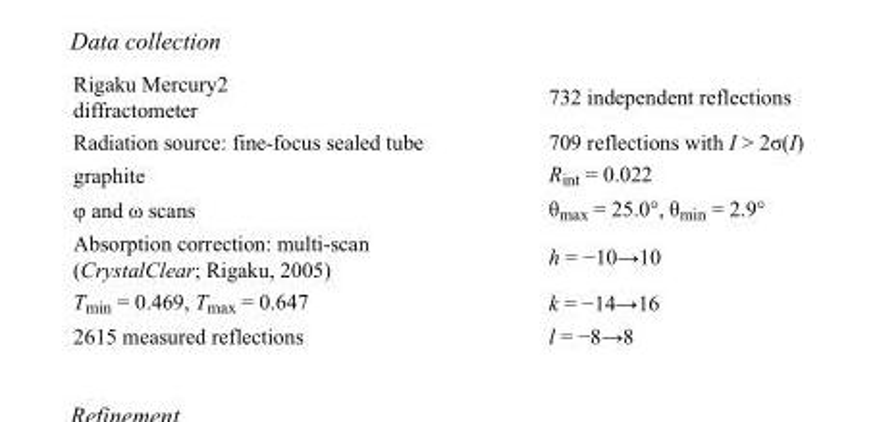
<table><tbody><tr><td>Rigaku Mercury2 diffractometer</td><td>732 independent reflections</td></tr><tr><td>Radiation source: fine-focus sealed tube</td><td>709 reflections with I &gt; 2σ(I)</td></tr><tr><td>graphite</td><td>R<sub>int</sub> = 0.022</td></tr><tr><td>φ and ω scans</td><td>θ<sub>max</sub> = 25.0°, θ<sub>min</sub> = 2.9°</td></tr><tr><td>Absorption correction: multi-scan (CrystalClear; Rigaku, 2005)</td><td>h = −10→10</td></tr><tr><td>T<sub>min</sub> = 0.469, T<sub>max</sub> = 0.647</td><td>k = −14→16</td></tr><tr><td>2615 measured reflections</td><td>l = −8→8</td></tr></tbody></table>